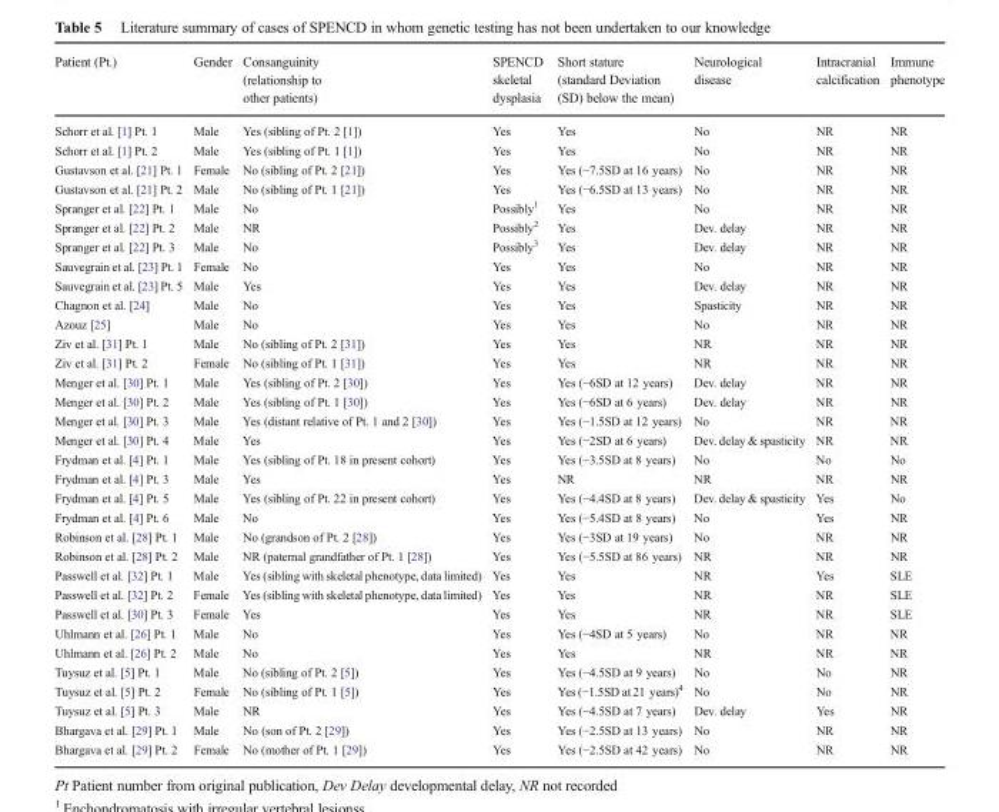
<table><thead><tr><td>Patient (Pt.)</td><td>Gender</td><td>Consanguinity (relationship to other patients)</td><td>SPENCD skeletal dysplasia</td><td>Short stature (standard Deviation (SD) below the mean)</td><td>Neurological disease</td><td>Intracranial calcification</td><td>Immune phenotype</td></tr></thead><tbody><tr><td>Schorr et al. [1] Pt. 1</td><td>Male</td><td>Yes (sibling of Pt. 2 [1])</td><td>Yes</td><td>Yes</td><td>No</td><td>NR</td><td>NR</td></tr><tr><td>Schorr et al. [1] Pt. 2</td><td>Male</td><td>Yes (sibling of Pt. 1 [1])</td><td>Yes</td><td>Yes</td><td>No</td><td>NR</td><td>NR</td></tr><tr><td>Gustavson et al. [21] Pt. 1</td><td>Female</td><td>No (sibling of Pt. 2 [21])</td><td>Yes</td><td>Yes (−7.5SD at 16 years)</td><td>No</td><td>NR</td><td>NR</td></tr><tr><td>Gustavson et al. [21] Pt. 2</td><td>Male</td><td>No (sibling of Pt. 1 [21])</td><td>Yes</td><td>Yes (−6.5SD at 13 years)</td><td>No</td><td>NR</td><td>NR</td></tr><tr><td>Spranger et al. [22] Pt. 1</td><td>Male</td><td>No</td><td>Possibly<sup>1</sup></td><td>Yes</td><td>No</td><td>NR</td><td>NR</td></tr><tr><td>Spranger et al. [22] Pt. 2</td><td>Male</td><td>NR</td><td>Possibly<sup>2</sup></td><td>Yes</td><td>Dev. delay</td><td>NR</td><td>NR</td></tr><tr><td>Spranger et al. [22] Pt. 3</td><td>Male</td><td>No</td><td>Possibly<sup>3</sup></td><td>Yes</td><td>Dev. delay</td><td>NR</td><td>NR</td></tr><tr><td>Sauvegrain et al. [23] Pt. 1</td><td>Female</td><td>No</td><td>Yes</td><td>Yes</td><td>No</td><td>NR</td><td>NR</td></tr><tr><td>Sauvegrain et al. [23] Pt. 5</td><td>Male</td><td>Yes</td><td>Yes</td><td>Yes</td><td>Dev. delay</td><td>NR</td><td>NR</td></tr><tr><td>Chagnon et al. [24]</td><td>Male</td><td>No</td><td>Yes</td><td>Yes</td><td>Spasticity</td><td>NR</td><td>NR</td></tr><tr><td>Azouz [25]</td><td>Male</td><td>No</td><td>Yes</td><td>Yes</td><td>No</td><td>NR</td><td>NR</td></tr><tr><td>Ziv et al. [31] Pt. 1</td><td>Male</td><td>No (sibling of Pt. 2 [31])</td><td>Yes</td><td>Yes</td><td>NR</td><td>NR</td><td>NR</td></tr><tr><td>Ziv et al. [31] Pt. 2</td><td>Female</td><td>No (sibling of Pt. 1 [31])</td><td>Yes</td><td>Yes</td><td>NR</td><td>NR</td><td>NR</td></tr><tr><td>Menger et al. [30] Pt. 1</td><td>Male</td><td>Yes (sibling of Pt. 2 [30])</td><td>Yes</td><td>Yes (−6SD at 12 years)</td><td>Dev. delay</td><td>NR</td><td>NR</td></tr><tr><td>Menger et al. [30] Pt. 2</td><td>Male</td><td>Yes (sibling of Pt. 1 [30])</td><td>Yes</td><td>Yes (−6SD at 6 years)</td><td>Dev. delay</td><td>NR</td><td>NR</td></tr><tr><td>Menger et al. [30] Pt. 3</td><td>Male</td><td>Yes (distant relative of Pt. 1 and 2 [30])</td><td>Yes</td><td>Yes (−1.5SD at 12 years)</td><td>No</td><td>NR</td><td>NR</td></tr><tr><td>Menger et al. [30] Pt. 4</td><td>Male</td><td>Yes</td><td>Yes</td><td>Yes (−2SD at 6 years)</td><td>Dev. delay &amp; spasticity</td><td>NR</td><td>NR</td></tr><tr><td>Frydman et al. [4] Pt. 1</td><td>Male</td><td>Yes (sibling of Pt. 18 in present cohort)</td><td>Yes</td><td>Yes (−3.5SD at 8 years)</td><td>No</td><td>No</td><td>No</td></tr><tr><td>Frydman et al. [4] Pt. 3</td><td>Male</td><td>Yes</td><td>Yes</td><td>NR</td><td>NR</td><td>NR</td><td>NR</td></tr><tr><td>Frydman et al. [4] Pt. 5</td><td>Male</td><td>Yes (sibling of Pt. 22 in present cohort)</td><td>Yes</td><td>Yes (−4.4SD at 8 years)</td><td>Dev. delay &amp; spasticity</td><td>Yes</td><td>No</td></tr><tr><td>Frydman et al. [4] Pt. 6</td><td>Male</td><td>No</td><td>Yes</td><td>Yes (−5.4SD at 8 years)</td><td>No</td><td>Yes</td><td>NR</td></tr><tr><td>Robinson et al. [28] Pt. 1</td><td>Male</td><td>No (grandson of Pt. 2 [28])</td><td>Yes</td><td>Yes (−3SD at 19 years)</td><td>No</td><td>NR</td><td>NR</td></tr><tr><td>Robinson et al. [28] Pt. 2</td><td>Male</td><td>NR (paternal grandfather of Pt. 1 [28])</td><td>Yes</td><td>Yes (−5.5SD at 86 years)</td><td>NR</td><td>NR</td><td>NR</td></tr><tr><td>Passwell et al. [32] Pt. 1</td><td>Male</td><td>Yes (sibling with skeletal phenotype, data limited)</td><td>Yes</td><td>Yes</td><td>NR</td><td>Yes</td><td>SLE</td></tr><tr><td>Passwell et al. [32] Pt. 2</td><td>Female</td><td>Yes (sibling with skeletal phenotype, data limited)</td><td>Yes</td><td>Yes</td><td>NR</td><td>NR</td><td>SLE</td></tr><tr><td>Passwell et al. [30] Pt. 3</td><td>Female</td><td>Yes</td><td>Yes</td><td>Yes</td><td>NR</td><td>NR</td><td>SLE</td></tr><tr><td>Uhlmann et al. [26] Pt. 1</td><td>Male</td><td>No</td><td>Yes</td><td>Yes (−4SD at 5 years)</td><td>No</td><td>NR</td><td>NR</td></tr><tr><td>Uhlmann et al. [26] Pt. 2</td><td>Male</td><td>No</td><td>Yes</td><td>Yes</td><td>NR</td><td>NR</td><td>NR</td></tr><tr><td>Tuysuz et al. [5] Pt. 1</td><td>Male</td><td>No (sibling of Pt. 2 [5])</td><td>Yes</td><td>Yes (−4.5SD at 9 years)</td><td>No</td><td>No</td><td>NR</td></tr><tr><td>Tuysuz et al. [5] Pt. 2</td><td>Female</td><td>No (sibling of Pt. 1 [5])</td><td>Yes</td><td>Yes (−1.5SD at 21 years)<sup>4</sup></td><td>No</td><td>No</td><td>NR</td></tr><tr><td>Tuysuz et al. [5] Pt. 3</td><td>Male</td><td>NR</td><td>Yes</td><td>Yes (−4.5SD at 7 years)</td><td>Dev. delay</td><td>Yes</td><td>NR</td></tr><tr><td>Bhargava et al. [29] Pt. 1</td><td>Male</td><td>No (son of Pt. 2 [29])</td><td>Yes</td><td>Yes (−2.5SD at 13 years)</td><td>No</td><td>NR</td><td>NR</td></tr><tr><td>Bhargava et al. [29] Pt. 2</td><td>Female</td><td>No (mother of Pt. 1 [29])</td><td>Yes</td><td>Yes (−2.5SD at 42 years)</td><td>No</td><td>NR</td><td>NR</td></tr></tbody></table>